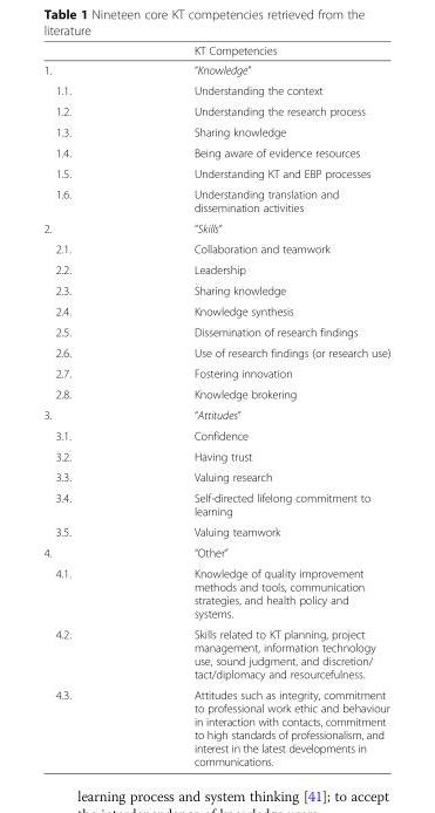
<table><thead><tr><td></td><td>KT Competencies</td></tr></thead><tbody><tr><td>1.</td><td>“Knowledge”</td></tr><tr><td>1.1.</td><td>Understanding the context</td></tr><tr><td>1.2.</td><td>Understanding the research process</td></tr><tr><td>1.3.</td><td>Sharing knowledge</td></tr><tr><td>1.4.</td><td>Being aware of evidence resources</td></tr><tr><td>1.5.</td><td>Understanding KT and EBP processes</td></tr><tr><td>1.6.</td><td>Understanding translation and dissemination activities</td></tr><tr><td>2.</td><td>“Skills”</td></tr><tr><td>2.1.</td><td>Collaboration and teamwork</td></tr><tr><td>2.2.</td><td>Leadership</td></tr><tr><td>2.3.</td><td>Sharing knowledge</td></tr><tr><td>2.4.</td><td>Knowledge synthesis</td></tr><tr><td>2.5.</td><td>Dissemination of research findings</td></tr><tr><td>2.6.</td><td>Use of research findings (or research use)</td></tr><tr><td>2.7.</td><td>Fostering innovation</td></tr><tr><td>2.8.</td><td>Knowledge brokering</td></tr><tr><td>3.</td><td>“Attitudes”</td></tr><tr><td>3.1.</td><td>Confidence</td></tr><tr><td>3.2.</td><td>Having trust</td></tr><tr><td>3.3.</td><td>Valuing research</td></tr><tr><td>3.4.</td><td>Self-directed lifelong commitment to learning</td></tr><tr><td>3.5.</td><td>Valuing teamwork</td></tr><tr><td>4.</td><td>“Other”</td></tr><tr><td>4.1.</td><td>Knowledge of quality improvement methods and tools, communication strategies, and health policy and systems.</td></tr><tr><td>4.2.</td><td>Skills related to KT planning, project management, information technology use, sound judgment, and discretion/ tact/diplomacy and resourcefulness.</td></tr><tr><td>4.3.</td><td>Attitudes such as integrity, commitment to professional work ethic and behaviour in interaction with contacts, commitment to high standards of professionalism, and interest in the latest developments in communications.</td></tr></tbody></table>